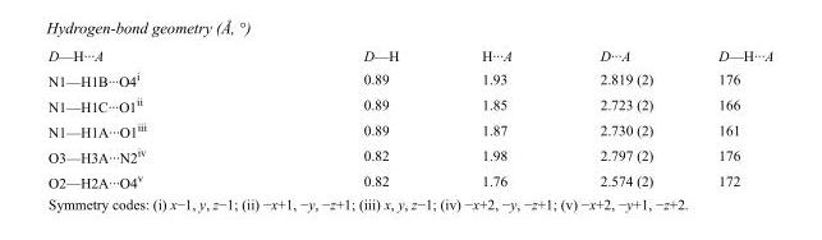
<table><tbody><tr><td>D—H···A</td><td>D—H</td><td>H···A</td><td>D···A</td><td>D—H···A</td></tr><tr><td>N1—H1B···O4<sup>i</sup></td><td>0.89</td><td>1.93</td><td>2.819 (2)</td><td>176</td></tr><tr><td>N1—H1C···O1<sup>ii</sup></td><td>0.89</td><td>1.85</td><td>2.723 (2)</td><td>166</td></tr><tr><td>N1—H1A···O1<sup>iii</sup></td><td>0.89</td><td>1.87</td><td>2.730 (2)</td><td>161</td></tr><tr><td>O3—H3A···N2<sup>iv</sup></td><td>0.82</td><td>1.98</td><td>2.797 (2)</td><td>176</td></tr><tr><td>O2—H2A···O4<sup>v</sup></td><td>0.82</td><td>1.76</td><td>2.574 (2)</td><td>172</td></tr></tbody></table>